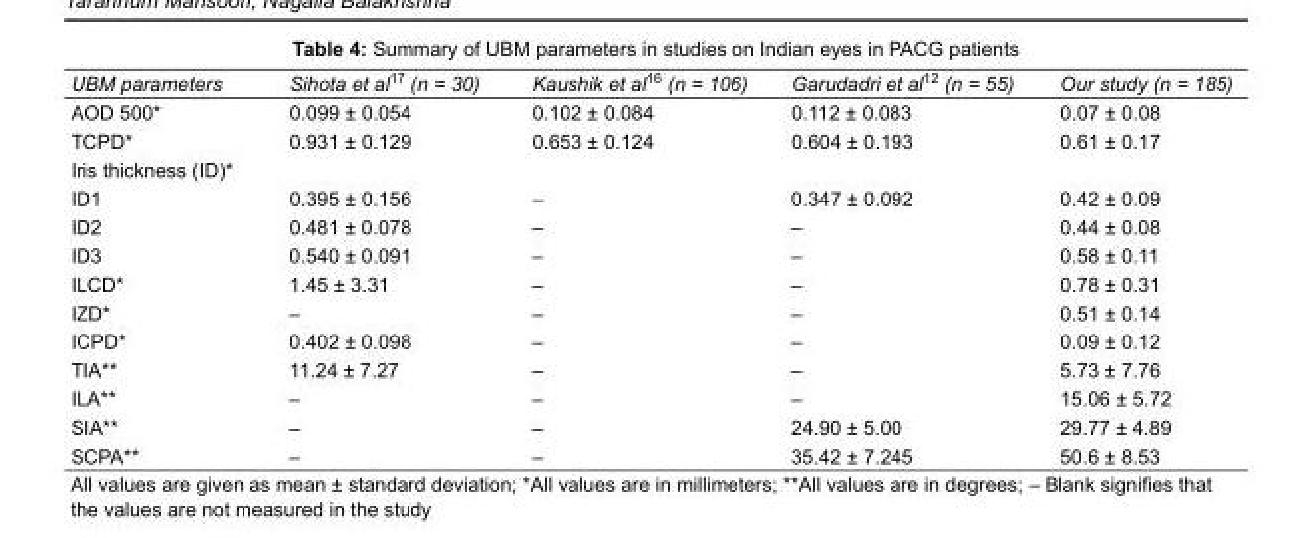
<table><tbody><tr><td>UBM parameters</td><td>Sihota et al17 (n = 30)</td><td>Kaushik et al<sup>16</sup> (n = 106)</td><td>Garudadri et al<sup>12</sup> (n = 55)</td><td>Our study (n = 185)</td></tr><tr><td>AOD 500*</td><td>0.099 ± 0.054</td><td>0.102 ± 0.084</td><td>0.112 ± 0.083</td><td>0.07 ± 0.08</td></tr><tr><td>TCPD*</td><td>0.931 ± 0.129</td><td>0.653 ± 0.124</td><td>0.604 ± 0.193</td><td>0.61 ± 0.17</td></tr><tr><td colspan="5">Iris thickness (ID)*</td></tr><tr><td>ID1</td><td>0.395 ± 0.156</td><td>–</td><td>0.347 ± 0.092</td><td>0.42 ± 0.09</td></tr><tr><td>ID2</td><td>0.481 ± 0.078</td><td>–</td><td>–</td><td>0.44 ± 0.08</td></tr><tr><td>ID3</td><td>0.540 ± 0.091</td><td>–</td><td>–</td><td>0.58 ± 0.11</td></tr><tr><td>ILCD*</td><td>1.45 ± 3.31</td><td>–</td><td>–</td><td>0.78 ± 0.31</td></tr><tr><td>IZD*</td><td>–</td><td>–</td><td>–</td><td>0.51 ± 0.14</td></tr><tr><td>ICPD*</td><td>0.402 ± 0.098</td><td>–</td><td>–</td><td>0.09 ± 0.12</td></tr><tr><td>TIA**</td><td>11.24 ± 7.27</td><td>–</td><td>–</td><td>5.73 ± 7.76</td></tr><tr><td>ILA**</td><td>–</td><td>–</td><td>–</td><td>15.06 ± 5.72</td></tr><tr><td>SIA**</td><td>–</td><td>–</td><td>24.90 ± 5.00</td><td>29.77 ± 4.89</td></tr><tr><td>SCPA**</td><td>–</td><td>–</td><td>35.42 ± 7.245</td><td>50.6 ± 8.53</td></tr></tbody></table>